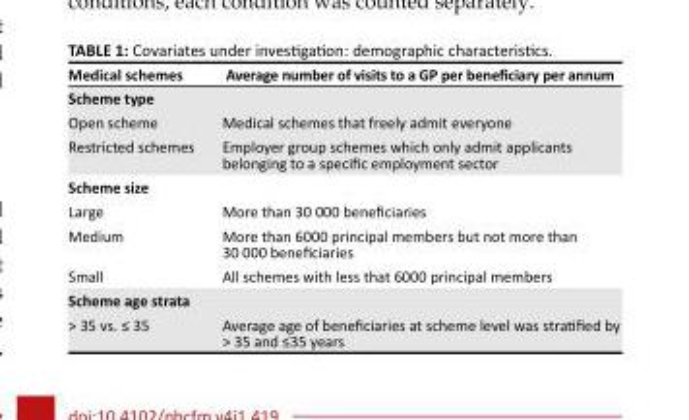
<table><thead><tr><td>Medical schemes</td><td>Average number of visits to a GP per beneficiary per annum</td></tr></thead><tbody><tr><td colspan="2">Scheme type</td></tr><tr><td>Open scheme</td><td>Medical schemes that freely admit everyone</td></tr><tr><td>Restricted schemes</td><td>Employer group schemes which only admit applicants belonging to a specific employment sector</td></tr><tr><td colspan="2">Scheme size</td></tr><tr><td>Large</td><td>More than 30 000 beneficiaries</td></tr><tr><td>Medium</td><td>More than 6000 principal members but not more than 30 000 beneficiaries</td></tr><tr><td>Small</td><td>All schemes with less that 6000 principal members</td></tr><tr><td colspan="2">Scheme age strata</td></tr><tr><td>&gt; 35 vs. ≤ 35</td><td>Average age of beneficiaries at scheme level was stratified by &gt; 35 and ≤35 years</td></tr></tbody></table>